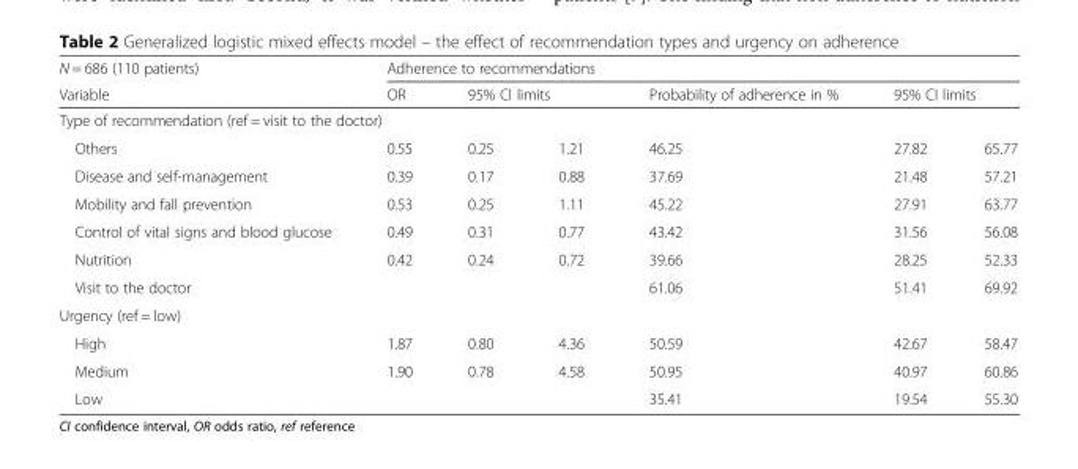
<table><thead><tr><td rowspan="2">N = 686 (110 patients) Variable</td><td colspan="6">Adherence to recommendations</td></tr><tr><td>OR</td><td colspan="2">95% CI limits</td><td>Probability of adherence in %</td><td colspan="2">95% CI limits</td></tr><tr><td colspan="7">Type of recommendation (ref = visit to the doctor)</td></tr><tr><td>Others</td><td>0.55</td><td>0.25</td><td>1.21</td><td>46.25</td><td>27.82</td><td>65.77</td></tr></thead><tbody><tr><td>Disease and self-management</td><td>0.39</td><td>0.17</td><td>0.88</td><td>37.69</td><td>21.48</td><td>57.21</td></tr><tr><td>Mobility and fall prevention</td><td>0.53</td><td>0.25</td><td>1.11</td><td>45.22</td><td>27.91</td><td>63.77</td></tr><tr><td>Control of vital signs and blood glucose</td><td>0.49</td><td>0.31</td><td>0.77</td><td>43.42</td><td>31.56</td><td>56.08</td></tr><tr><td>Nutrition</td><td>0.42</td><td>0.24</td><td>0.72</td><td>39.66</td><td>28.25</td><td>52.33</td></tr><tr><td>Visit to the doctor</td><td></td><td></td><td></td><td>61.06</td><td>51.41</td><td>69.92</td></tr><tr><td colspan="7">Urgency (ref = low)</td></tr><tr><td>High</td><td>1.87</td><td>0.80</td><td>4.36</td><td>50.59</td><td>42.67</td><td>58.47</td></tr><tr><td>Medium</td><td>1.90</td><td>0.78</td><td>4.58</td><td>50.95</td><td>40.97</td><td>60.86</td></tr><tr><td>Low</td><td></td><td></td><td></td><td>35.41</td><td>19.54</td><td>55.30</td></tr></tbody></table>